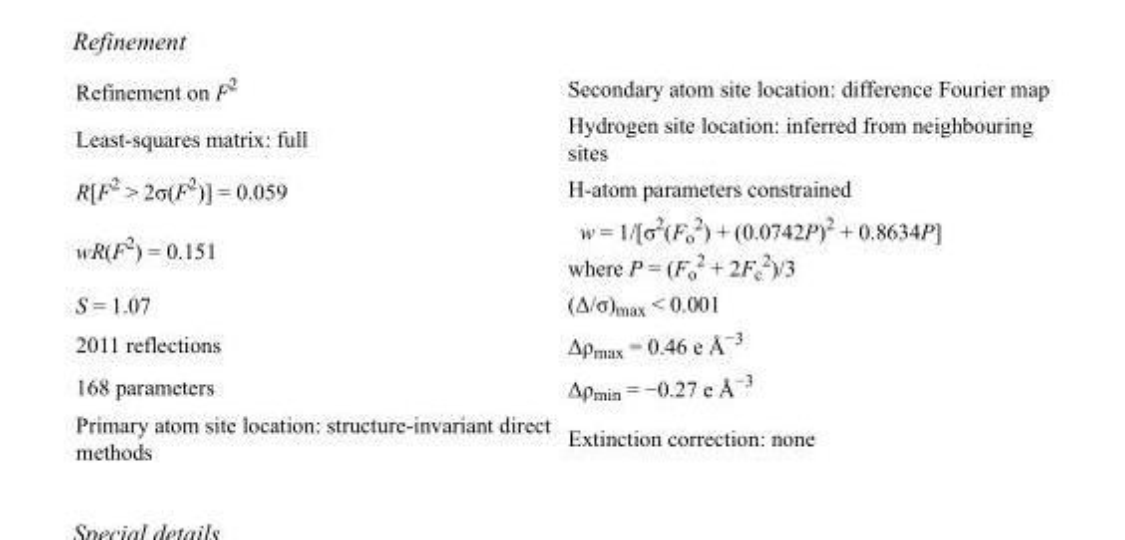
<table><tbody><tr><td>Refinement on F<sup>2</sup></td><td>Secondary atom site location: difference Fourier map</td></tr><tr><td>Least-squares matrix: full</td><td>Hydrogen site location: inferred from neighbouring sites</td></tr><tr><td>R[F<sup>2</sup> &gt; 2σ(F<sup>2</sup>)] = 0.059</td><td>H-atom parameters constrained</td></tr><tr><td>wR(F<sup>2</sup>) = 0.151</td><td>w = 1/[σ<sup>2</sup>(F<sub>o</sub> <sup>2</sup>) + (0.0742P)<sup>2</sup> + 0.8634P] where P = (F<sub>o</sub> <sup>2</sup> + 2F<sub>c</sub> <sup>2</sup>)/3</td></tr><tr><td>S = 1.07</td><td>(Δ/σ)<sub>max</sub> &lt; 0.001</td></tr><tr><td>2011 reflections</td><td>Δρ<sub>max</sub> = 0.46 e Å<sup>−3</sup></td></tr><tr><td>168 parameters</td><td>Δρ<sub>min</sub> = −0.27 e Å<sup>−3</sup></td></tr><tr><td>Primary atom site location: structure-invariant direct methods</td><td>Extinction correction: none</td></tr></tbody></table>